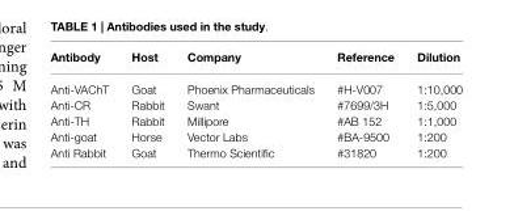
<table><thead><tr><td>Antibody</td><td>Host</td><td>Company</td><td>Reference</td><td>Dilution</td></tr></thead><tbody><tr><td>Anti-VAChT</td><td>Goat</td><td>Phoenix Pharmaceuticals</td><td>#H-V007</td><td>1:10,000</td></tr><tr><td>Anti-CR</td><td>Rabbit</td><td>Swant</td><td>#7699/3H</td><td>1:5,000</td></tr><tr><td>Anti-TH</td><td>Rabbit</td><td>Millipore</td><td>#AB 152</td><td>1:1,000</td></tr><tr><td>Anti-goat</td><td>Horse</td><td>Vector Labs</td><td>#BA-9500</td><td>1:200</td></tr><tr><td>Anti Rabbit</td><td>Goat</td><td>Thermo Scientific</td><td>#31820</td><td>1:200</td></tr></tbody></table>